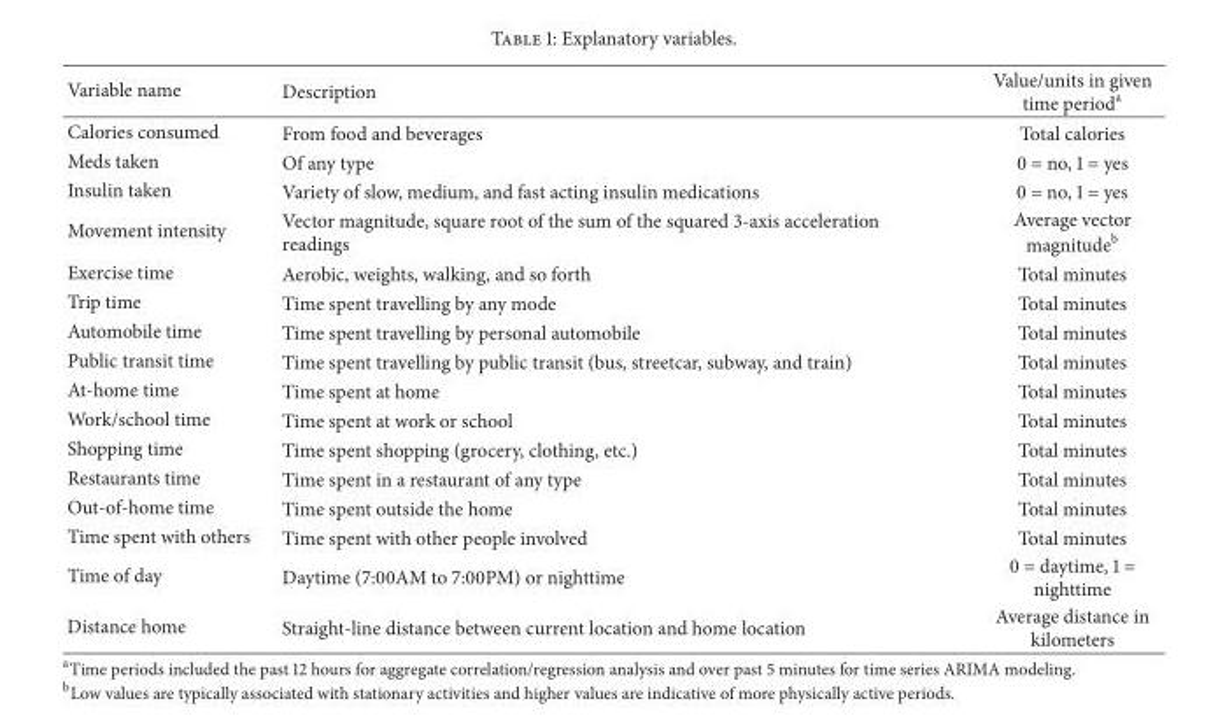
<table><thead><tr><td>Variable name</td><td>Description</td><td>Value/units in given time period<sup>a</sup></td></tr></thead><tbody><tr><td>Calories consumed</td><td>From food and beverages</td><td>Total calories</td></tr><tr><td>Meds taken</td><td>Of any type</td><td>0 = no, 1 = yes</td></tr><tr><td>Insulin taken</td><td>Variety of slow, medium, and fast acting insulin medications</td><td>0 = no, 1 = yes</td></tr><tr><td>Movement intensity</td><td>Vector magnitude, square root of the sum of the squared 3-axis acceleration readings</td><td>Average vector magnitude<sup>b</sup></td></tr><tr><td>Exercise time</td><td>Aerobic, weights, walking, and so forth</td><td>Total minutes</td></tr><tr><td>Trip time</td><td>Time spent travelling by any mode</td><td>Total minutes</td></tr><tr><td>Automobile time</td><td>Time spent travelling by personal automobile</td><td>Total minutes</td></tr><tr><td>Public transit time</td><td>Time spent travelling by public transit (bus, streetcar, subway, and train)</td><td>Total minutes</td></tr><tr><td>At-home time</td><td>Time spent at home</td><td>Total minutes</td></tr><tr><td>Work/school time</td><td>Time spent at work or school</td><td>Total minutes</td></tr><tr><td>Shopping time</td><td>Time spent shopping (grocery, clothing, etc.)</td><td>Total minutes</td></tr><tr><td>Restaurants time</td><td>Time spent in a restaurant of any type</td><td>Total minutes</td></tr><tr><td>Out-of-home time</td><td>Time spent outside the home</td><td>Total minutes</td></tr><tr><td>Time spent with others</td><td>Time spent with other people involved</td><td>Total minutes</td></tr><tr><td>Time of day</td><td>Daytime (7:00AM to 7:00PM) or nighttime</td><td>0 = daytime, 1 = nighttime</td></tr><tr><td>Distance home</td><td>Straight-line distance between current location and home location</td><td>Average distance in kilometers</td></tr></tbody></table>